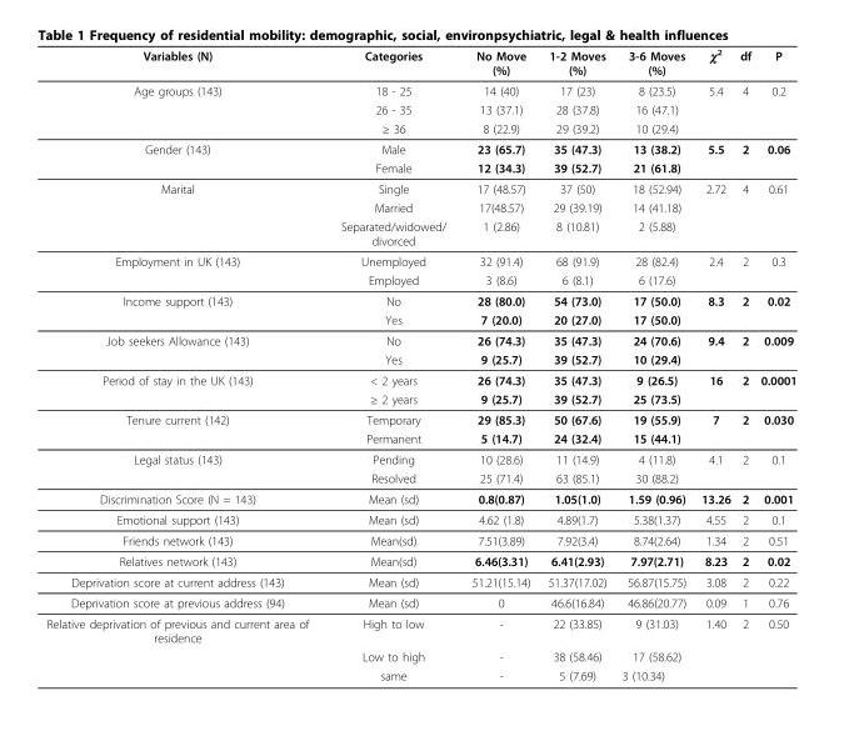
<table><thead><tr><td>Variables (N)</td><td>Categories</td><td>No Move (%)</td><td>1-2 Moves (%)</td><td>3-6 Moves (%)</td><td>χ<sup>2</sup></td><td>df</td><td>P</td></tr></thead><tbody><tr><td rowspan="3">Age groups (143)</td><td>18 - 25</td><td>14 (40)</td><td>17 (23)</td><td>8 (23.5)</td><td>5.4</td><td>4</td><td>0.2</td></tr><tr><td>26 - 35</td><td>13 (37.1)</td><td>28 (37.8)</td><td>16 (47.1)</td><td></td><td></td><td></td></tr><tr><td>≥ 36</td><td>8 (22.9)</td><td>29 (39.2)</td><td>10 (29.4)</td><td></td><td></td><td></td></tr><tr><td rowspan="2">Gender (143)</td><td>Male</td><td>23 (65.7)</td><td>35 (47.3)</td><td>13 (38.2)</td><td>5.5</td><td>2</td><td>0.06</td></tr><tr><td>Female</td><td>12 (34.3)</td><td>39 (52.7)</td><td>21 (61.8)</td><td></td><td></td><td></td></tr><tr><td rowspan="3">Marital</td><td>Single</td><td>17 (48.57)</td><td>37 (50)</td><td>18 (52.94)</td><td>2.72</td><td>4</td><td>0.61</td></tr><tr><td>Married</td><td>17(48.57)</td><td>29 (39.19)</td><td>14 (41.18)</td><td></td><td></td><td></td></tr><tr><td>Separated/widowed/ divorced</td><td>1 (2.86)</td><td>8 (10.81)</td><td>2 (5.88)</td><td></td><td></td><td></td></tr><tr><td rowspan="2">Employment in UK (143)</td><td>Unemployed</td><td>32 (91.4)</td><td>68 (91.9)</td><td>28 (82.4)</td><td>2.4</td><td>2</td><td>0.3</td></tr><tr><td>Employed</td><td>3 (8.6)</td><td>6 (8.1)</td><td>6 (17.6)</td><td></td><td></td><td></td></tr><tr><td rowspan="2">Income support (143)</td><td>No</td><td>28 (80.0)</td><td>54 (73.0)</td><td>17 (50.0)</td><td>8.3</td><td>2</td><td>0.02</td></tr><tr><td>Yes</td><td>7 (20.0)</td><td>20 (27.0)</td><td>17 (50.0)</td><td></td><td></td><td></td></tr><tr><td rowspan="2">Job seekers Allowance (143)</td><td>No</td><td>26 (74.3)</td><td>35 (47.3)</td><td>24 (70.6)</td><td>9.4</td><td>2</td><td>0.009</td></tr><tr><td>Yes</td><td>9 (25.7)</td><td>39 (52.7)</td><td>10 (29.4)</td><td></td><td></td><td></td></tr><tr><td rowspan="2">Period of stay in the UK (143)</td><td>&lt; 2 years</td><td>26 (74.3)</td><td>35 (47.3)</td><td>9 (26.5)</td><td>16</td><td>2</td><td>0.0001</td></tr><tr><td>≥ 2 years</td><td>9 (25.7)</td><td>39 (52.7)</td><td>25 (73.5)</td><td></td><td></td><td></td></tr><tr><td rowspan="2">Tenure current (142)</td><td>Temporary</td><td>29 (85.3)</td><td>50 (67.6)</td><td>19 (55.9)</td><td>7</td><td>2</td><td>0.030</td></tr><tr><td>Permanent</td><td>5 (14.7)</td><td>24 (32.4)</td><td>15 (44.1)</td><td></td><td></td><td></td></tr><tr><td rowspan="2">Legal status (143)</td><td>Pending</td><td>10 (28.6)</td><td>11 (14.9)</td><td>4 (11.8)</td><td>4.1</td><td>2</td><td>0.1</td></tr><tr><td>Resolved</td><td>25 (71.4)</td><td>63 (85.1)</td><td>30 (88.2)</td><td></td><td></td><td></td></tr><tr><td>Discrimination Score (N = 143)</td><td>Mean (sd)</td><td>0.8(0.87)</td><td>1.05(1.0)</td><td>1.59 (0.96)</td><td>13.26</td><td>2</td><td>0.001</td></tr><tr><td>Emotional support (143)</td><td>Mean (sd)</td><td>4.62 (1.8)</td><td>4.89(1.7)</td><td>5.38(1.37)</td><td>4.55</td><td>2</td><td>0.1</td></tr><tr><td>Friends network (143)</td><td>Mean(sd)</td><td>7.51(3.89)</td><td>7.92(3.4)</td><td>8.74(2.64)</td><td>1.34</td><td>2</td><td>0.51</td></tr><tr><td>Relatives network (143)</td><td>Mean(sd)</td><td>6.46(3.31)</td><td>6.41(2.93)</td><td>7.97(2.71)</td><td>8.23</td><td>2</td><td>0.02</td></tr><tr><td>Deprivation score at current address (143)</td><td>Mean (sd)</td><td>51.21(15.14)</td><td>51.37(17.02)</td><td>56.87(15.75)</td><td>3.08</td><td>2</td><td>0.22</td></tr><tr><td>Deprivation score at previous address (94)</td><td>Mean (sd)</td><td>0</td><td>46.6(16.84)</td><td>46.86(20.77)</td><td>0.09</td><td>1</td><td>0.76</td></tr><tr><td rowspan="3">Relative deprivation of previous and current area of residence</td><td>High to low</td><td>-</td><td>22 (33.85)</td><td>9 (31.03)</td><td>1.40</td><td>2</td><td>0.50</td></tr><tr><td>Low to high</td><td>-</td><td>38 (58.46)</td><td>17 (58.62)</td><td></td><td></td><td></td></tr><tr><td>same</td><td>-</td><td>5 (7.69)</td><td>3 (10.34)</td><td></td><td></td><td></td></tr></tbody></table>